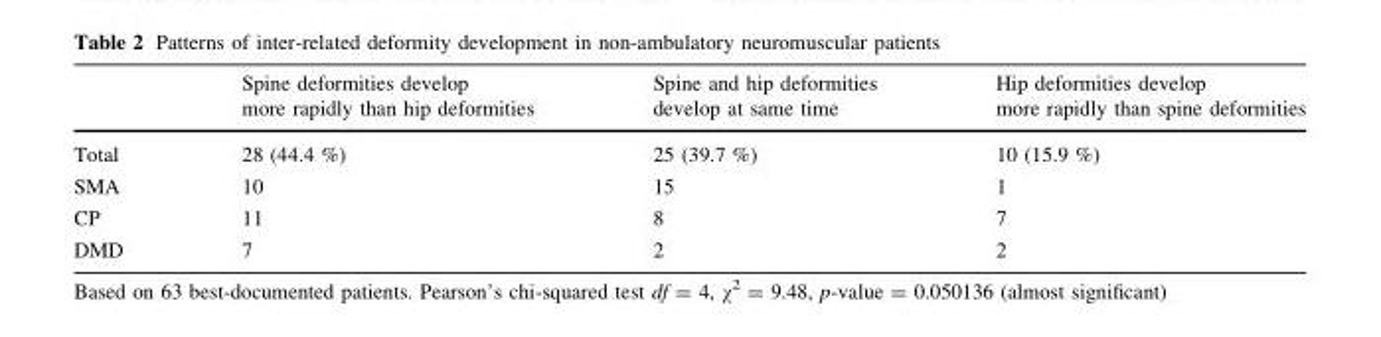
<table><thead><tr><td></td><td>Spine deformities develop more rapidly than hip deformities</td><td>Spine and hip deformities develop at same time</td><td>Hip deformities develop more rapidly than spine deformities</td></tr></thead><tbody><tr><td>Total</td><td>28 (44.4 %)</td><td>25 (39.7 %)</td><td>10 (15.9 %)</td></tr><tr><td>SMA</td><td>10</td><td>15</td><td>1</td></tr><tr><td>CP</td><td>11</td><td>8</td><td>7</td></tr><tr><td>DMD</td><td>7</td><td>2</td><td>2</td></tr></tbody></table>